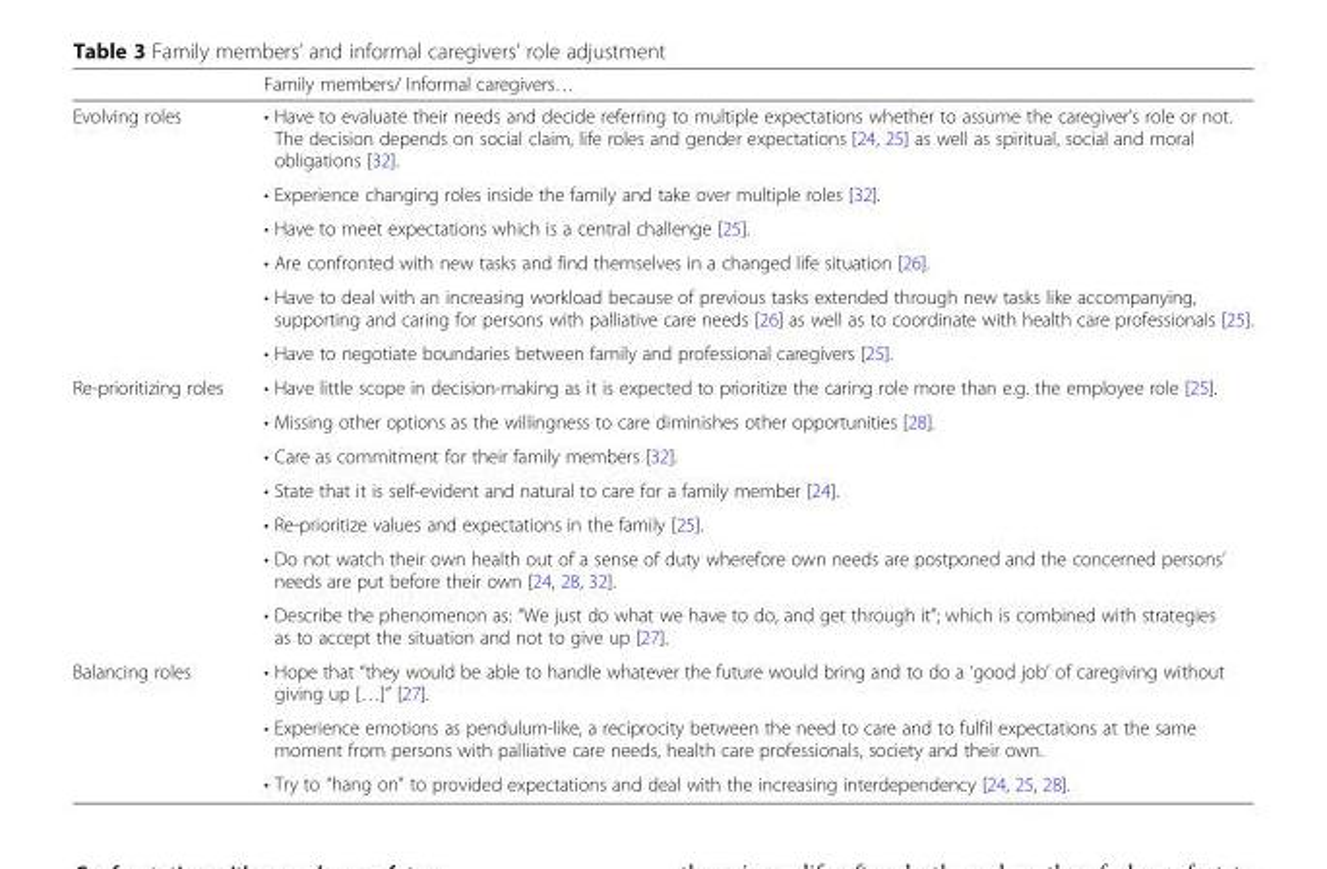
<table><thead><tr><td></td><td>Family members/ Informal caregivers…</td></tr></thead><tbody><tr><td rowspan="6">Evolving roles</td><td>• Have to evaluate their needs and decide referring to multiple expectations whether to assume the caregiver’s role or not. The decision depends on social claim, life roles and gender expectations [24, 25] as well as spiritual, social and moral obligations [32].</td></tr><tr><td>• Experience changing roles inside the family and take over multiple roles [32].</td></tr><tr><td>• Have to meet expectations which is a central challenge [25].</td></tr><tr><td>• Are confronted with new tasks and find themselves in a changed life situation [26].</td></tr><tr><td>• Have to deal with an increasing workload because of previous tasks extended through new tasks like accompanying, supporting and caring for persons with palliative care needs [26] as well as to coordinate with health care professionals [25].</td></tr><tr><td>• Have to negotiate boundaries between family and professional caregivers [25].</td></tr><tr><td rowspan="7">Re-prioritizing roles</td><td>• Have little scope in decision-making as it is expected to prioritize the caring role more than e.g. the employee role [25].</td></tr><tr><td>• Missing other options as the willingness to care diminishes other opportunities [28].</td></tr><tr><td>• Care as commitment for their family members [32].</td></tr><tr><td>• State that it is self-evident and natural to care for a family member [24].</td></tr><tr><td>• Re-prioritize values and expectations in the family [25].</td></tr><tr><td>• Do not watch their own health out of a sense of duty wherefore own needs are postponed and the concerned persons’ needs are put before their own [24, 28, 32].</td></tr><tr><td>• Describe the phenomenon as: “We just do what we have to do, and get through it”; which is combined with strategies as to accept the situation and not to give up [27].</td></tr><tr><td rowspan="3">Balancing roles</td><td>• Hope that “they would be able to handle whatever the future would bring and to do a ‘good job’ of caregiving without giving up […]” [27].</td></tr><tr><td>• Experience emotions as pendulum-like, a reciprocity between the need to care and to fulfil expectations at the same moment from persons with palliative care needs, health care professionals, society and their own.</td></tr><tr><td>• Try to “hang on” to provided expectations and deal with the increasing interdependency [24, 25, 28].</td></tr></tbody></table>